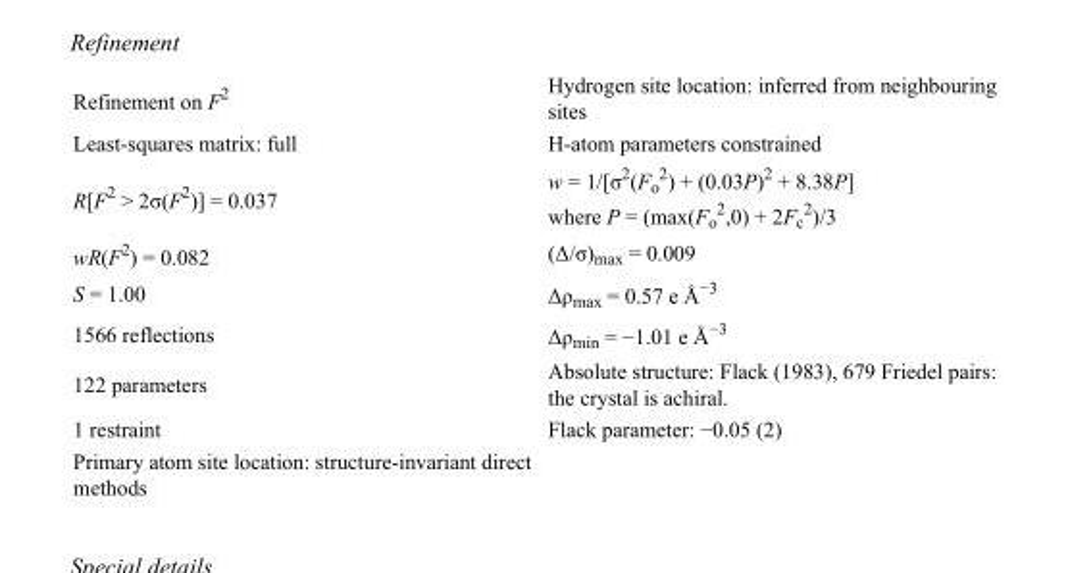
<table><tbody><tr><td>Refinement on F<sup>2</sup></td><td>Hydrogen site location: inferred from neighbouring sites</td></tr><tr><td>Least-squares matrix: full</td><td>H-atom parameters constrained</td></tr><tr><td>R[F<sup>2</sup> &gt; 2σ(F<sup>2</sup>)] = 0.037</td><td>w = 1/[σ<sup>2</sup>(F<sub>o</sub> <sup>2</sup>) + (0.03P)<sup>2</sup> + 8.38P] where P = (max(F<sub>o</sub> <sup>2</sup>,0) + 2F<sub>c</sub> <sup>2</sup>)/3</td></tr><tr><td>wR(F<sup>2</sup>) = 0.082</td><td>(Δ/σ)<sub>max</sub> = 0.009</td></tr><tr><td>S = 1.00</td><td>Δρ<sub>max</sub> = 0.57 e Å<sup>−3</sup></td></tr><tr><td>1566 reflections</td><td>Δρ<sub>min</sub> = −1.01 e Å<sup>−3</sup></td></tr><tr><td>122 parameters</td><td>Absolute structure: Flack (1983), 679 Friedel pairs: the crystal is achiral.</td></tr><tr><td>1 restraint</td><td>Flack parameter: −0.05 (2)</td></tr><tr><td>Primary atom site location: structure-invariant direct methods</td><td></td></tr></tbody></table>